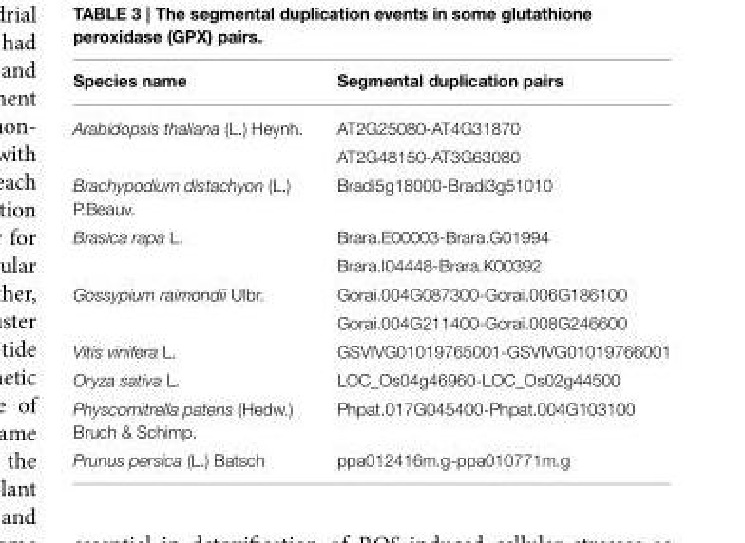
<table><thead><tr><td>Species name</td><td>Segmental duplication pairs</td></tr></thead><tbody><tr><td rowspan="2">Arabidopsis thaliana (L.) Heynh.</td><td>AT2G25080-AT4G31870</td></tr><tr><td>AT2G48150-AT3G63080</td></tr><tr><td>Brachypodium distachyon (L.) P.Beauv.</td><td>Bradi5g18000-Bradi3g51010</td></tr><tr><td rowspan="2">Brasica rapa L.</td><td>Brara.E00003-Brara.G01994</td></tr><tr><td>Brara.I04448-Brara.K00392</td></tr><tr><td rowspan="2">Gossypium raimondii Ulbr.</td><td>Gorai.004G087300-Gorai.006G186100</td></tr><tr><td>Gorai.004G211400-Gorai.008G246600</td></tr><tr><td>Vitis vinifera L.</td><td>GSVIVG01019765001-GSVIVG01019766001</td></tr><tr><td>Oryza sativa L.</td><td>LOC_Os04g46960-LOC_Os02g44500</td></tr><tr><td>Physcomitrella patens (Hedw.) Bruch &amp; Schimp.</td><td>Phpat.017G045400-Phpat.004G103100</td></tr><tr><td>Prunus persica (L.) Batsch</td><td>ppa012416m.g-ppa010771m.g</td></tr></tbody></table>